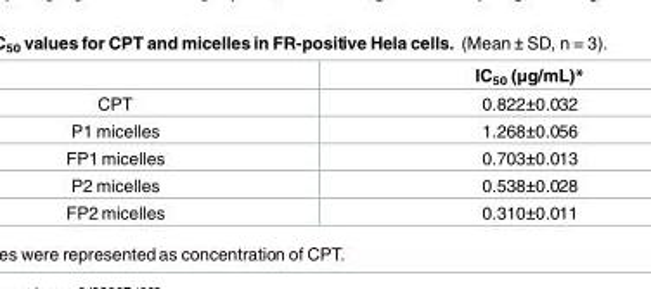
<table><thead><tr><td></td><td>IC<sub>50</sub> (μg/mL)*</td></tr></thead><tbody><tr><td>CPT</td><td>0.822±0.032</td></tr><tr><td>P1 micelles</td><td>1.268±0.056</td></tr><tr><td>FP1 micelles</td><td>0.703±0.013</td></tr><tr><td>P2 micelles</td><td>0.538±0.028</td></tr><tr><td>FP2 micelles</td><td>0.310±0.011</td></tr></tbody></table>